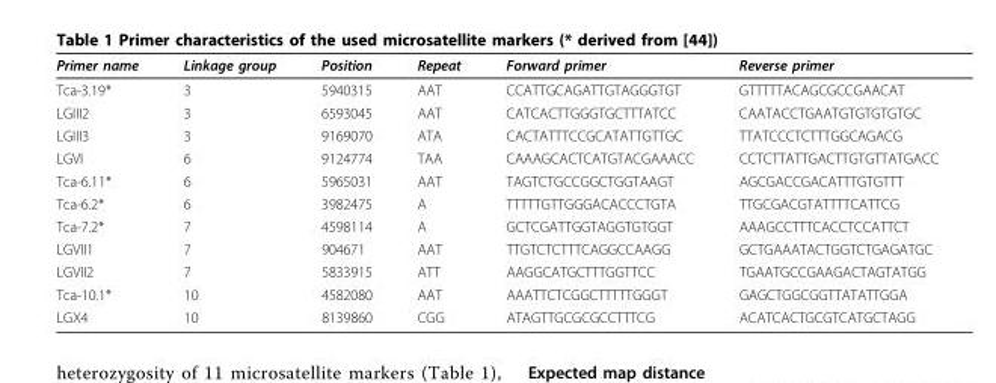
<table><thead><tr><td>Primer name</td><td>Linkage group</td><td>Position</td><td>Repeat</td><td>Forward primer</td><td>Reverse primer</td></tr></thead><tbody><tr><td>Tca-3.19*</td><td>3</td><td>5940315</td><td>AAT</td><td>CCATTGCAGATTGTAGGGTGT</td><td>GTTTTTACAGCGCCGAACAT</td></tr><tr><td>LGIII2</td><td>3</td><td>6593045</td><td>AAT</td><td>CATCACTTGGGTGCTTTATCC</td><td>CAATACCTGAATGTGTGTGTGC</td></tr><tr><td>LGIII3</td><td>3</td><td>9169070</td><td>ATA</td><td>CACTATTTCCGCATATTGTTGC</td><td>TTATCCCTCTTTGGCAGACG</td></tr><tr><td>LGVI</td><td>6</td><td>9124774</td><td>TAA</td><td>CAAAGCACTCATGTACGAAACC</td><td>CCTCTTATTGACTTGTGTTATGACC</td></tr><tr><td>Tca-6.11*</td><td>6</td><td>5965031</td><td>AAT</td><td>TAGTCTGCCGGCTGGTAAGT</td><td>AGCGACCGACATTTGTGTTT</td></tr><tr><td>Tca-6.2*</td><td>6</td><td>3982475</td><td>A</td><td>TTTTTGTTGGGACACCCTGTA</td><td>TTGCGACGTATTTTCATTCG</td></tr><tr><td>Tca-7.2*</td><td>7</td><td>4598114</td><td>A</td><td>GCTCGATTGGTAGGTGTGGT</td><td>AAAGCCTTTCACCTCCATTCT</td></tr><tr><td>LGVII1</td><td>7</td><td>904671</td><td>AAT</td><td>TTGTCTCTTTCAGGCCAAGG</td><td>GCTGAAATACTGGTCTGAGATGC</td></tr><tr><td>LGVII2</td><td>7</td><td>5833915</td><td>ATT</td><td>AAGGCATGCTTTGGTTCC</td><td>TGAATGCCGAAGACTAGTATGG</td></tr><tr><td>Tca-10.1*</td><td>10</td><td>4582080</td><td>AAT</td><td>AAATTCTCGGCTTTTTGGGT</td><td>GAGCTGGCGGTTATATTGGA</td></tr><tr><td>LGX4</td><td>10</td><td>8139860</td><td>CGG</td><td>ATAGTTGCGCGCCTTTCG</td><td>ACATCACTGCGTCATGCTAGG</td></tr></tbody></table>